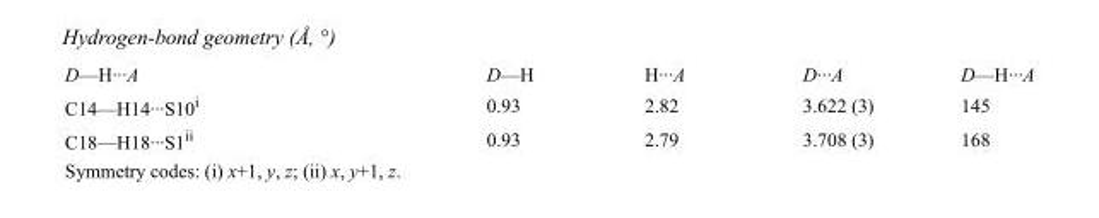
<table><tbody><tr><td>D—H···A</td><td>D—H</td><td>H···A</td><td>D···A</td><td>D—H···A</td></tr><tr><td>C14—H14···S10<sup>i</sup></td><td>0.93</td><td>2.82</td><td>3.622 (3)</td><td>145</td></tr><tr><td>C18—H18···S1<sup>ii</sup></td><td>0.93</td><td>2.79</td><td>3.708 (3)</td><td>168</td></tr></tbody></table>